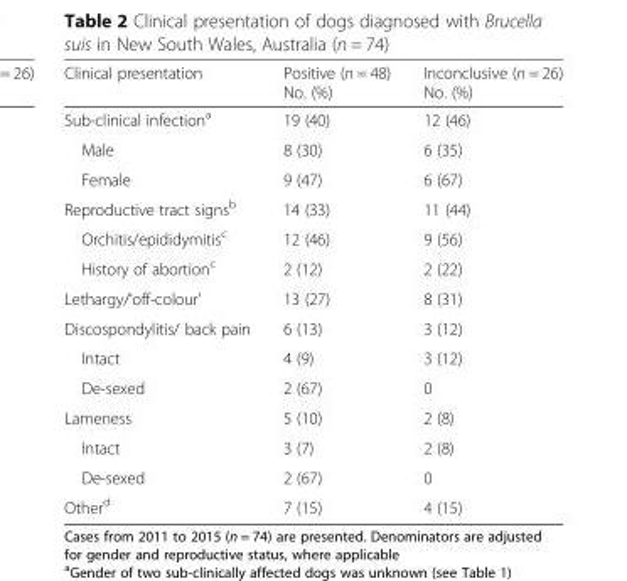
<table><thead><tr><td>Clinical presentation</td><td>Positive (n = 48) No. (%)</td><td>Inconclusive (n = 26) No. (%)</td></tr></thead><tbody><tr><td>Sub-clinical infection<sup>a</sup></td><td>19 (40)</td><td>12 (46)</td></tr><tr><td>Male</td><td>8 (30)</td><td>6 (35)</td></tr><tr><td>Female</td><td>9 (47)</td><td>6 (67)</td></tr><tr><td>Reproductive tract signs<sup>b</sup></td><td>14 (33)</td><td>11 (44)</td></tr><tr><td>Orchitis/epididymitis<sup>c</sup></td><td>12 (46)</td><td>9 (56)</td></tr><tr><td>History of abortion<sup>c</sup></td><td>2 (12)</td><td>2 (22)</td></tr><tr><td>Lethargy/‘off-colour’</td><td>13 (27)</td><td>8 (31)</td></tr><tr><td>Discospondylitis/ back pain</td><td>6 (13)</td><td>3 (12)</td></tr><tr><td>Intact</td><td>4 (9)</td><td>3 (12)</td></tr><tr><td>De-sexed</td><td>2 (67)</td><td>0</td></tr><tr><td>Lameness</td><td>5 (10)</td><td>2 (8)</td></tr><tr><td>Intact</td><td>3 (7)</td><td>2 (8)</td></tr><tr><td>De-sexed</td><td>2 (67)</td><td>0</td></tr><tr><td>Other<sup>d</sup></td><td>7 (15)</td><td>4 (15)</td></tr></tbody></table>